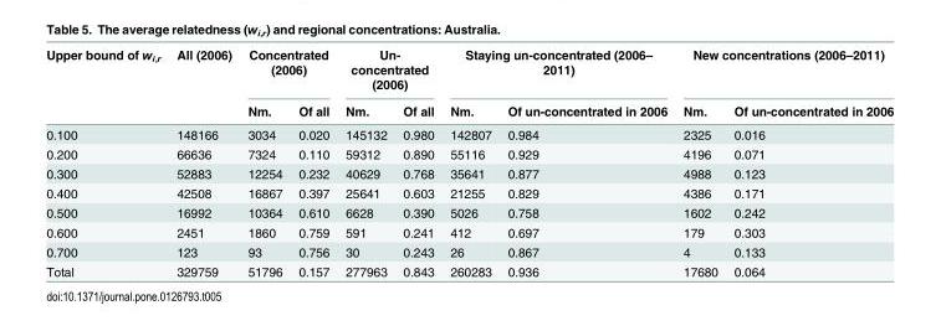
<table><thead><tr><td rowspan="2">Upper bound of w<sub>i,r</sub></td><td rowspan="2">All (2006)</td><td colspan="2">Concentrated (2006)</td><td colspan="2">Un- concentrated (2006)</td><td colspan="2">Staying un-concentrated (2006– 2011)</td><td colspan="2">New concentrations (2006–2011)</td></tr><tr><td>Nm.</td><td>Of all</td><td>Nm.</td><td>Of all</td><td>Nm.</td><td>Of un-concentrated in 2006</td><td>Nm.</td><td>Of un-concentrated in 2006</td></tr></thead><tbody><tr><td>0.100</td><td>148166</td><td>3034</td><td>0.020</td><td>145132</td><td>0.980</td><td>142807</td><td>0.984</td><td>2325</td><td>0.016</td></tr><tr><td>0.200</td><td>66636</td><td>7324</td><td>0.110</td><td>59312</td><td>0.890</td><td>55116</td><td>0.929</td><td>4196</td><td>0.071</td></tr><tr><td>0.300</td><td>52883</td><td>12254</td><td>0.232</td><td>40629</td><td>0.768</td><td>35641</td><td>0.877</td><td>4988</td><td>0.123</td></tr><tr><td>0.400</td><td>42508</td><td>16867</td><td>0.397</td><td>25641</td><td>0.603</td><td>21255</td><td>0.829</td><td>4386</td><td>0.171</td></tr><tr><td>0.500</td><td>16992</td><td>10364</td><td>0.610</td><td>6628</td><td>0.390</td><td>5026</td><td>0.758</td><td>1602</td><td>0.242</td></tr><tr><td>0.600</td><td>2451</td><td>1860</td><td>0.759</td><td>591</td><td>0.241</td><td>412</td><td>0.697</td><td>179</td><td>0.303</td></tr><tr><td>0.700</td><td>123</td><td>93</td><td>0.756</td><td>30</td><td>0.243</td><td>26</td><td>0.867</td><td>4</td><td>0.133</td></tr><tr><td>Total</td><td>329759</td><td>51796</td><td>0.157</td><td>277963</td><td>0.843</td><td>260283</td><td>0.936</td><td>17680</td><td>0.064</td></tr></tbody></table>